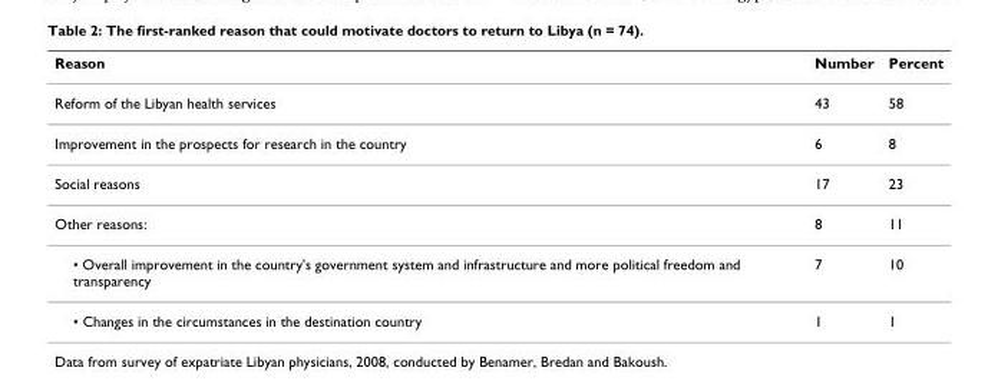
<table><thead><tr><td>Reason</td><td>Number</td><td>Percent</td></tr></thead><tbody><tr><td>Reform of the Libyan health services</td><td>43</td><td>58</td></tr><tr><td>Improvement in the prospects for research in the country</td><td>6</td><td>8</td></tr><tr><td>Social reasons</td><td>17</td><td>23</td></tr><tr><td>Other reasons:</td><td>8</td><td>11</td></tr><tr><td>• Overall improvement in the country&#x27;s government system and infrastructure and more political freedom and transparency</td><td>7</td><td>10</td></tr><tr><td>• Changes in the circumstances in the destination country</td><td>1</td><td>1</td></tr></tbody></table>